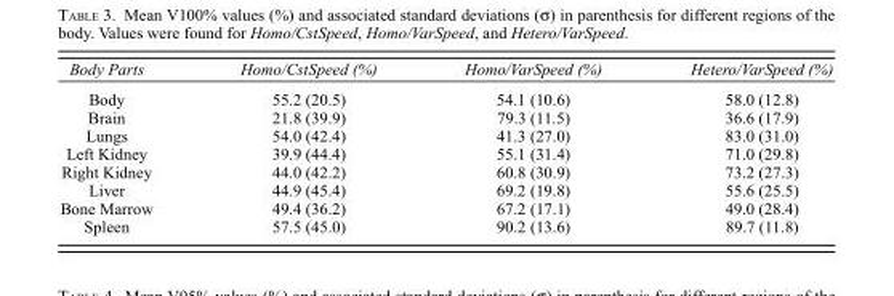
<table><thead><tr><td>Body Parts</td><td>Homo/CstSpeed (%)</td><td>Homo/VarSpeed (%)</td><td>Hetero/VarSpeed (%)</td></tr></thead><tbody><tr><td>Body</td><td>55.2 (20.5)</td><td>54.1 (10.6)</td><td>58.0 (12.8)</td></tr><tr><td>Brain</td><td>21.8 (39.9)</td><td>79.3 (11.5)</td><td>36.6 (17.9)</td></tr><tr><td>Lungs</td><td>54.0 (42.4)</td><td>41.3 (27.0)</td><td>83.0 (31.0)</td></tr><tr><td>Left Kidney</td><td>39.9 (44.4)</td><td>55.1 (31.4)</td><td>71.0 (29.8)</td></tr><tr><td>Right Kidney</td><td>44.0 (42.2)</td><td>60.8 (30.9)</td><td>73.2 (27.3)</td></tr><tr><td>Liver</td><td>44.9 (45.4)</td><td>69.2 (19.8)</td><td>55.6 (25.5)</td></tr><tr><td>Bone Marrow</td><td>49.4 (36.2)</td><td>67.2 (17.1)</td><td>49.0 (28.4)</td></tr><tr><td>Spleen</td><td>57.5 (45.0)</td><td>90.2 (13.6)</td><td>89.7 (11.8)</td></tr></tbody></table>